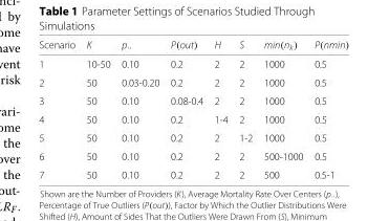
<table><thead><tr><td>Scenario</td><td>K</td><td>p<sub>··</sub></td><td>P(out)</td><td>H</td><td>S</td><td>min(n<sub>k</sub>)</td><td>P(nmin)</td></tr></thead><tbody><tr><td>1</td><td>10-50</td><td>0.10</td><td>0.2</td><td>2</td><td>2</td><td>1000</td><td>0.5</td></tr><tr><td>2</td><td>50</td><td>0.03-0.20</td><td>0.2</td><td>2</td><td>2</td><td>1000</td><td>0.5</td></tr><tr><td>3</td><td>50</td><td>0.10</td><td>0.08-0.4</td><td>2</td><td>2</td><td>1000</td><td>0.5</td></tr><tr><td>4</td><td>50</td><td>0.10</td><td>0.2</td><td>1-4</td><td>2</td><td>1000</td><td>0.5</td></tr><tr><td>5</td><td>50</td><td>0.10</td><td>0.2</td><td>2</td><td>1-2</td><td>1000</td><td>0.5</td></tr><tr><td>6</td><td>50</td><td>0.10</td><td>0.2</td><td>2</td><td>2</td><td>500-1000</td><td>0.5</td></tr><tr><td>7</td><td>50</td><td>0.10</td><td>0.2</td><td>2</td><td>2</td><td>500</td><td>0.5-1</td></tr></tbody></table>